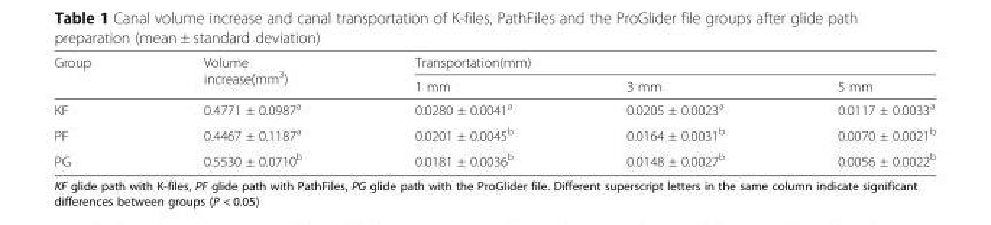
<table><thead><tr><td rowspan="2">Group</td><td rowspan="2">Volume increase(mm<sup>3</sup>)</td><td colspan="3">Transportation(mm)</td></tr><tr><td>1 mm</td><td>3 mm</td><td>5 mm</td></tr></thead><tbody><tr><td>KF</td><td>0.4771 ± 0.0987<sup>a</sup></td><td>0.0280 ± 0.0041<sup>a</sup></td><td>0.0205 ± 0.0023<sup>a</sup></td><td>0.0117 ± 0.0033<sup>a</sup></td></tr><tr><td>PF</td><td>0.4467 ± 0.1187<sup>a</sup></td><td>0.0201 ± 0.0045<sup>b</sup></td><td>0.0164 ± 0.0031<sup>b</sup></td><td>0.0070 ± 0.0021<sup>b</sup></td></tr><tr><td>PG</td><td>0.5530 ± 0.0710<sup>b</sup></td><td>0.0181 ± 0.0036<sup>b</sup></td><td>0.0148 ± 0.0027<sup>b</sup></td><td>0.0056 ± 0.0022<sup>b</sup></td></tr></tbody></table>